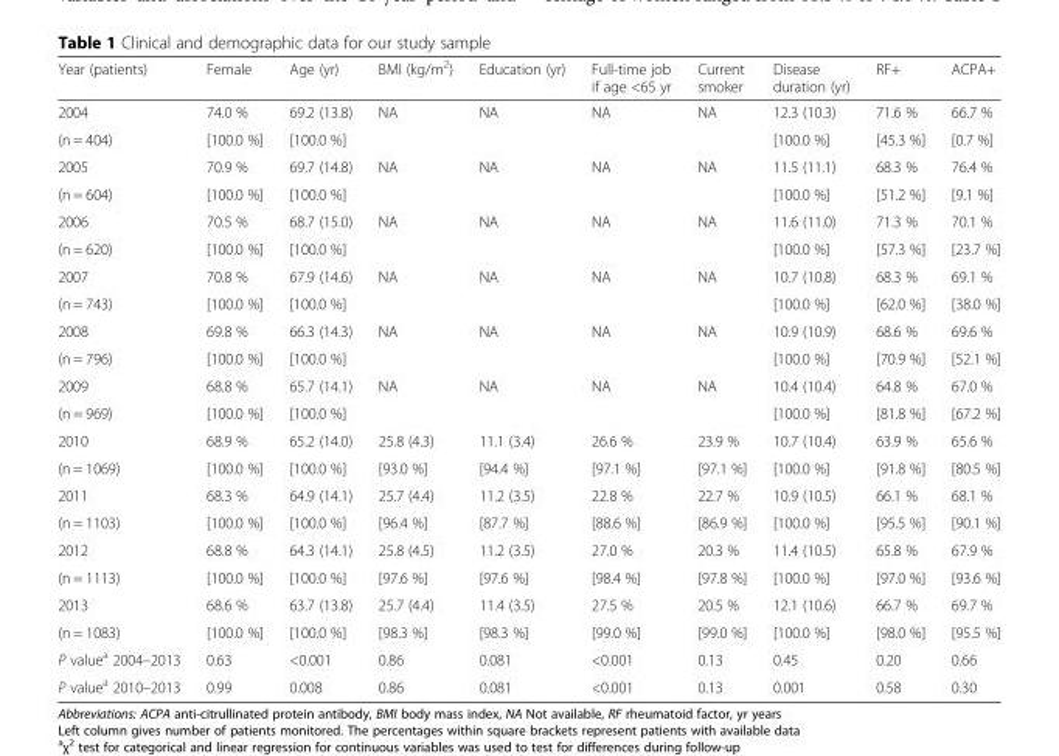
<table><thead><tr><td>Year (patients)</td><td>Female</td><td>Age (yr)</td><td>BMI (kg/m<sup>2</sup>)</td><td>Education (yr)</td><td>Full-time job if age &lt;65 yr</td><td>Current smoker</td><td>Disease duration (yr)</td><td>RF+</td><td>ACPA+</td></tr></thead><tbody><tr><td>2004</td><td>74.0 %</td><td>69.2 (13.8)</td><td rowspan="2">NA</td><td rowspan="2">NA</td><td rowspan="2">NA</td><td rowspan="2">NA</td><td>12.3 (10.3)</td><td>71.6 %</td><td>66.7 %</td></tr><tr><td>(n = 404)</td><td>[100.0 %]</td><td>[100.0 %]</td><td>[100.0 %]</td><td>[45.3 %]</td><td>[0.7 %]</td></tr><tr><td>2005</td><td>70.9 %</td><td>69.7 (14.8)</td><td rowspan="2">NA</td><td rowspan="2">NA</td><td rowspan="2">NA</td><td rowspan="2">NA</td><td>11.5 (11.1)</td><td>68.3 %</td><td>76.4 %</td></tr><tr><td>(n = 604)</td><td>[100.0 %]</td><td>[100.0 %]</td><td>[100.0 %]</td><td>[51.2 %]</td><td>[9.1 %]</td></tr><tr><td>2006</td><td>70.5 %</td><td>68.7 (15.0)</td><td rowspan="2">NA</td><td rowspan="2">NA</td><td rowspan="2">NA</td><td rowspan="2">NA</td><td>11.6 (11.0)</td><td>71.3 %</td><td>70.1 %</td></tr><tr><td>(n = 620)</td><td>[100.0 %]</td><td>[100.0 %]</td><td>[100.0 %]</td><td>[57.3 %]</td><td>[23.7 %]</td></tr><tr><td>2007</td><td>70.8 %</td><td>67.9 (14.6)</td><td rowspan="2">NA</td><td rowspan="2">NA</td><td rowspan="2">NA</td><td rowspan="2">NA</td><td>10.7 (10.8)</td><td>68.3 %</td><td>69.1 %</td></tr><tr><td>(n = 743)</td><td>[100.0 %]</td><td>[100.0 %]</td><td>[100.0 %]</td><td>[62.0 %]</td><td>[38.0 %]</td></tr><tr><td>2008</td><td>69.8 %</td><td>66.3 (14.3)</td><td rowspan="2">NA</td><td rowspan="2">NA</td><td rowspan="2">NA</td><td rowspan="2">NA</td><td>10.9 (10.9)</td><td>68.6 %</td><td>69.6 %</td></tr><tr><td>(n = 796)</td><td>[100.0 %]</td><td>[100.0 %]</td><td>[100.0 %]</td><td>[70.9 %]</td><td>[52.1 %]</td></tr><tr><td>2009</td><td>68.8 %</td><td>65.7 (14.1)</td><td rowspan="2">NA</td><td rowspan="2">NA</td><td rowspan="2">NA</td><td rowspan="2">NA</td><td>10.4 (10.4)</td><td>64.8 %</td><td>67.0 %</td></tr><tr><td>(n = 969)</td><td>[100.0 %]</td><td>[100.0 %]</td><td>[100.0 %]</td><td>[81.8 %]</td><td>[67.2 %]</td></tr><tr><td>2010</td><td>68.9 %</td><td>65.2 (14.0)</td><td>25.8 (4.3)</td><td>11.1 (3.4)</td><td>26.6 %</td><td>23.9 %</td><td>10.7 (10.4)</td><td>63.9 %</td><td>65.6 %</td></tr><tr><td>(n = 1069)</td><td>[100.0 %]</td><td>[100.0 %]</td><td>[93.0 %]</td><td>[94.4 %]</td><td>[97.1 %]</td><td>[97.1 %]</td><td>[100.0 %]</td><td>[91.8 %]</td><td>[80.5 %]</td></tr><tr><td>2011</td><td>68.3 %</td><td>64.9 (14.1)</td><td>25.7 (4.4)</td><td>11.2 (3.5)</td><td>22.8 %</td><td>22.7 %</td><td>10.9 (10.5)</td><td>66.1 %</td><td>68.1 %</td></tr><tr><td>(n = 1103)</td><td>[100.0 %]</td><td>[100.0 %]</td><td>[96.4 %]</td><td>[87.7 %]</td><td>[88.6 %]</td><td>[86.9 %]</td><td>[100.0 %]</td><td>[95.5 %]</td><td>[90.1 %]</td></tr><tr><td>2012</td><td>68.8 %</td><td>64.3 (14.1)</td><td>25.8 (4.5)</td><td>11.2 (3.5)</td><td>27.0 %</td><td>20.3 %</td><td>11.4 (10.5)</td><td>65.8 %</td><td>67.9 %</td></tr><tr><td>(n = 1113)</td><td>[100.0 %]</td><td>[100.0 %]</td><td>[97.6 %]</td><td>[97.6 %]</td><td>[98.4 %]</td><td>[97.8 %]</td><td>[100.0 %]</td><td>[97.0 %]</td><td>[93.6 %]</td></tr><tr><td>2013</td><td>68.6 %</td><td>63.7 (13.8)</td><td>25.7 (4.4)</td><td>11.4 (3.5)</td><td>27.5 %</td><td>20.5 %</td><td>12.1 (10.6)</td><td>66.7 %</td><td>69.7 %</td></tr><tr><td>(n = 1083)</td><td>[100.0 %]</td><td>[100.0 %]</td><td>[98.3 %]</td><td>[98.3 %]</td><td>[99.0 %]</td><td>[99.0 %]</td><td>[100.0 %]</td><td>[98.0 %]</td><td>[95.5 %]</td></tr><tr><td>P value<sup>a</sup> 2004–2013</td><td>0.63</td><td>&lt;0.001</td><td>0.86</td><td>0.081</td><td>&lt;0.001</td><td>0.13</td><td>0.45</td><td>0.20</td><td>0.66</td></tr><tr><td>P value<sup>a</sup> 2010–2013</td><td>0.99</td><td>0.008</td><td>0.86</td><td>0.081</td><td>&lt;0.001</td><td>0.13</td><td>0.001</td><td>0.58</td><td>0.30</td></tr></tbody></table>